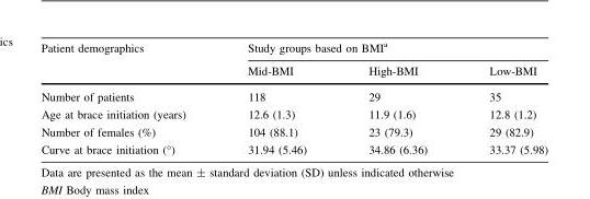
<table><thead><tr><td rowspan="2">Patient demographics</td><td colspan="3">Study groups based on BMI<sup>a</sup></td></tr><tr><td>Mid-BMI</td><td>High-BMI</td><td>Low-BMI</td></tr></thead><tbody><tr><td>Number of patients</td><td>118</td><td>29</td><td>35</td></tr><tr><td>Age at brace initiation (years)</td><td>12.6 (1.3)</td><td>11.9 (1.6)</td><td>12.8 (1.2)</td></tr><tr><td>Number of females (%)</td><td>104 (88.1)</td><td>23 (79.3)</td><td>29 (82.9)</td></tr><tr><td>Curve at brace initiation (°)</td><td>31.94 (5.46)</td><td>34.86 (6.36)</td><td>33.37 (5.98)</td></tr></tbody></table>